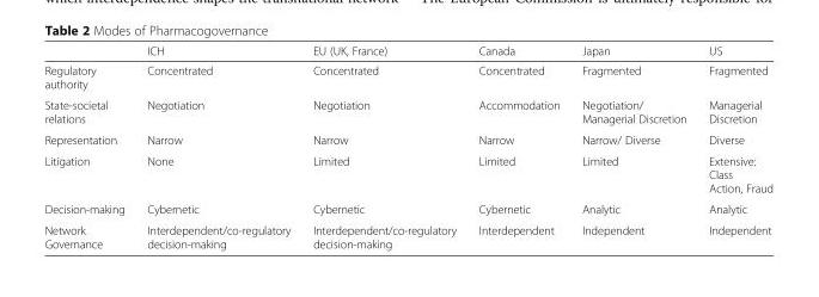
<table><thead><tr><td></td><td>ICH</td><td>EU (UK, France)</td><td>Canada</td><td>Japan</td><td>US</td></tr></thead><tbody><tr><td>Regulatory authority</td><td>Concentrated</td><td>Concentrated</td><td>Concentrated</td><td>Fragmented</td><td>Fragmented</td></tr><tr><td>State-societal relations</td><td>Negotiation</td><td>Negotiation</td><td>Accommodation</td><td>Negotiation/ Managerial Discretion</td><td>Managerial Discretion</td></tr><tr><td>Representation</td><td>Narrow</td><td>Narrow</td><td>Narrow</td><td>Narrow/ Diverse</td><td>Diverse</td></tr><tr><td>Litigation</td><td>None</td><td>Limited</td><td>Limited</td><td>Limited</td><td>Extensive: Class Action, Fraud</td></tr><tr><td>Decision-making</td><td>Cybernetic</td><td>Cybernetic</td><td>Cybernetic</td><td>Analytic</td><td>Analytic</td></tr><tr><td>Network Governance</td><td>Interdependent/co-regulatory decision-making</td><td>Interdependent/co-regulatory decision-making</td><td>Interdependent</td><td>Independent</td><td>Independent</td></tr></tbody></table>